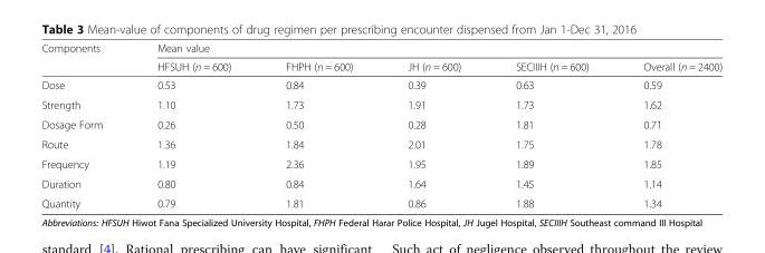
<table><thead><tr><td rowspan="2">Components</td><td colspan="5">Mean value</td></tr><tr><td>HFSUH (n = 600)</td><td>FHPH (n = 600)</td><td>JH (n = 600)</td><td>SECIIIH (n = 600)</td><td>Overall (n = 2400)</td></tr></thead><tbody><tr><td>Dose</td><td>0.53</td><td>0.84</td><td>0.39</td><td>0.63</td><td>0.59</td></tr><tr><td>Strength</td><td>1.10</td><td>1.73</td><td>1.91</td><td>1.73</td><td>1.62</td></tr><tr><td>Dosage Form</td><td>0.26</td><td>0.50</td><td>0.28</td><td>1.81</td><td>0.71</td></tr><tr><td>Route</td><td>1.36</td><td>1.84</td><td>2.01</td><td>1.75</td><td>1.78</td></tr><tr><td>Frequency</td><td>1.19</td><td>2.36</td><td>1.95</td><td>1.89</td><td>1.85</td></tr><tr><td>Duration</td><td>0.80</td><td>0.84</td><td>1.64</td><td>1.45</td><td>1.14</td></tr><tr><td>Quantity</td><td>0.79</td><td>1.81</td><td>0.86</td><td>1.88</td><td>1.34</td></tr></tbody></table>